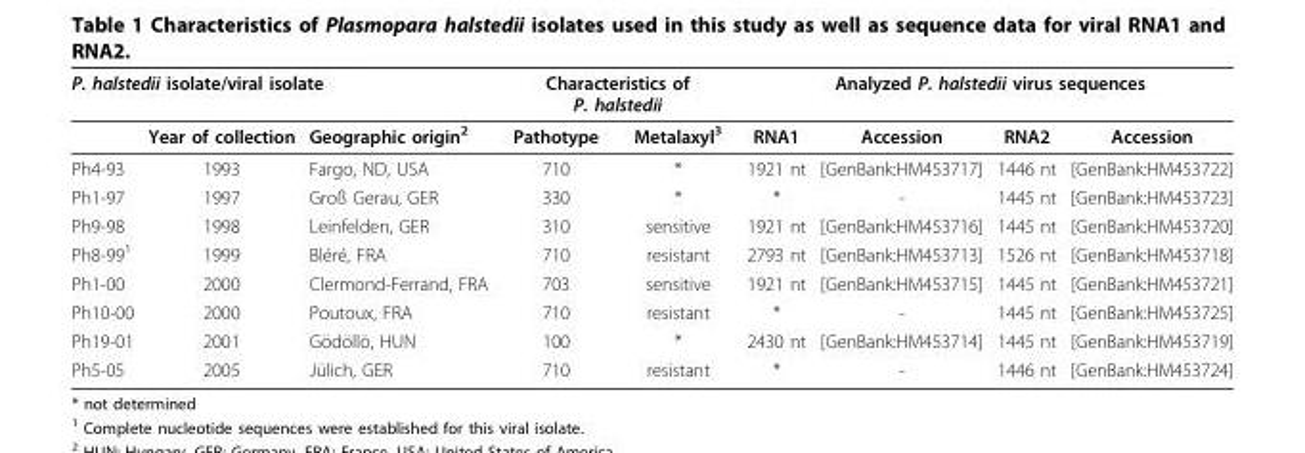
<table><thead><tr><td colspan="3">P. halstedii isolate/viral isolate</td><td colspan="2">Characteristics of P. halstedii</td><td colspan="4">Analyzed P. halstedii virus sequences</td></tr><tr><td></td><td>Year of collection</td><td>Geographic origin<sup>2</sup></td><td>Pathotype</td><td>Metalaxyl<sup>3</sup></td><td>RNA1</td><td>Accession</td><td>RNA2</td><td>Accession</td></tr></thead><tbody><tr><td>Ph4-93</td><td>1993</td><td>Fargo, ND, USA</td><td>710</td><td>*</td><td>1921 nt</td><td>[GenBank:HM453717]</td><td>1446 nt</td><td>[GenBank:HM453722]</td></tr><tr><td>Ph1-97</td><td>1997</td><td>Groß Gerau, GER</td><td>330</td><td>*</td><td>*</td><td>-</td><td>1445 nt</td><td>[GenBank:HM453723]</td></tr><tr><td>Ph9-98</td><td>1998</td><td>Leinfelden, GER</td><td>310</td><td>sensitive</td><td>1921 nt</td><td>[GenBank:HM453716]</td><td>1445 nt</td><td>[GenBank:HM453720]</td></tr><tr><td>Ph8-99<sup>1</sup></td><td>1999</td><td>Bléré, FRA</td><td>710</td><td>resistant</td><td>2793 nt</td><td>[GenBank:HM453713]</td><td>1526 nt</td><td>[GenBank:HM453718]</td></tr><tr><td>Ph1-00</td><td>2000</td><td>Clermond-Ferrand, FRA</td><td>703</td><td>sensitive</td><td>1921 nt</td><td>[GenBank:HM453715]</td><td>1445 nt</td><td>[GenBank:HM453721]</td></tr><tr><td>Ph10-00</td><td>2000</td><td>Poutoux, FRA</td><td>710</td><td>resistant</td><td>*</td><td>-</td><td>1445 nt</td><td>[GenBank:HM453725]</td></tr><tr><td>Ph19-01</td><td>2001</td><td>Gödöllö, HUN</td><td>100</td><td>*</td><td>2430 nt</td><td>[GenBank:HM453714]</td><td>1445 nt</td><td>[GenBank:HM453719]</td></tr><tr><td>Ph5-05</td><td>2005</td><td>Jülich, GER</td><td>710</td><td>resistant</td><td>*</td><td>-</td><td>1446 nt</td><td>[GenBank:HM453724]</td></tr></tbody></table>